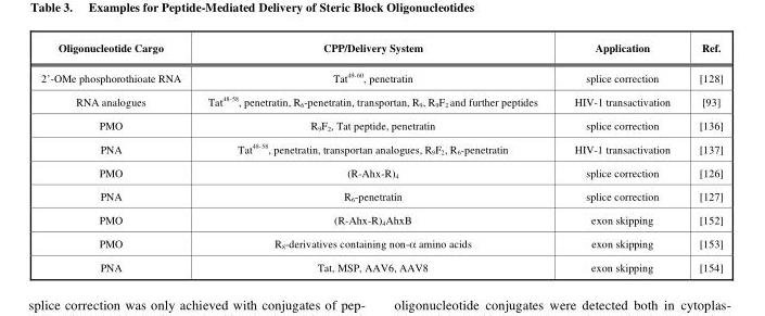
<table><thead><tr><td>Oligonucleotide Cargo</td><td>CPP/Delivery System</td><td>Application</td><td>Ref.</td></tr></thead><tbody><tr><td>2’-OMe phosphorothioate RNA</td><td>Tat<sup>49-60</sup>, penetratin</td><td>splice correction</td><td>[128]</td></tr><tr><td>RNA analogues</td><td>Tat<sup>48-58</sup>, penetratin, R<sub>6</sub>-penetratin, transportan, R<sub>9</sub>, R<sub>9</sub>F<sub>2</sub> and further peptides</td><td>HIV-1 transactivation</td><td>[93]</td></tr><tr><td>PMO</td><td>R<sub>9</sub>F<sub>2</sub>, Tat peptide, penetratin</td><td>splice correction</td><td>[136]</td></tr><tr><td>PNA</td><td>Tat<sup>48-58</sup>, penetratin, transportan analogues, R<sub>9</sub>F<sub>2</sub>, R<sub>6</sub>-penetratin</td><td>HIV-1 transactivation</td><td>[137]</td></tr><tr><td>PMO</td><td>(R-Ahx-R)<sub>4</sub></td><td>splice correction</td><td>[126]</td></tr><tr><td>PNA</td><td>R<sub>6</sub>-penetratin</td><td>splice correction</td><td>[127]</td></tr><tr><td>PMO</td><td>(R-Ahx-R)<sub>4</sub>AhxB</td><td>exon skipping</td><td>[152]</td></tr><tr><td>PMO</td><td>R<sub>8</sub>-derivatives containing non-α amino acids</td><td>exon skipping</td><td>[153]</td></tr><tr><td>PNA</td><td>Tat, MSP, AAV6, AAV8</td><td>exon skipping</td><td>[154]</td></tr></tbody></table>